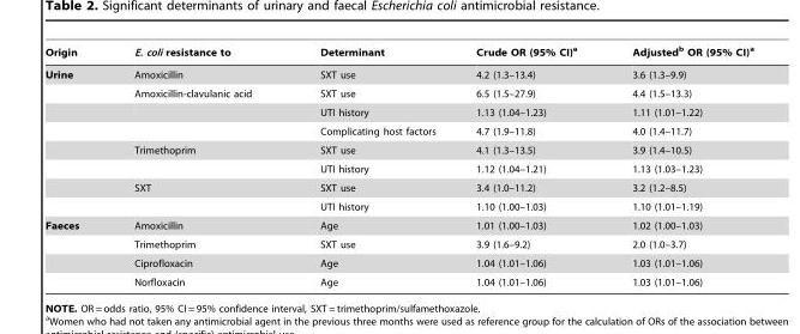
<table><thead><tr><td>Origin</td><td>E. coli resistance to</td><td>Determinant</td><td>Crude OR (95% CI)<sup>a</sup></td><td>Adjusted<sup>b</sup> OR (95% CI)<sup>a</sup></td></tr></thead><tbody><tr><td rowspan="8">Urine</td><td>Amoxicillin</td><td>SXT use</td><td>4.2 (1.3–13.4)</td><td>3.6 (1.3–9.9)</td></tr><tr><td>Amoxicillin-clavulanic acid</td><td>SXT use</td><td>6.5 (1.5–27.9)</td><td>4.4 (1.5–13.3)</td></tr><tr><td></td><td>UTI history</td><td>1.13 (1.04–1.23)</td><td>1.11 (1.01–1.22)</td></tr><tr><td></td><td>Complicating host factors</td><td>4.7 (1.9–11.8)</td><td>4.0 (1.4–11.7)</td></tr><tr><td>Trimethoprim</td><td>SXT use</td><td>4.1 (1.3–13.5)</td><td>3.9 (1.4–10.5)</td></tr><tr><td></td><td>UTI history</td><td>1.12 (1.04–1.21)</td><td>1.13 (1.03–1.23)</td></tr><tr><td>SXT</td><td>SXT use</td><td>3.4 (1.0–11.2)</td><td>3.2 (1.2–8.5)</td></tr><tr><td></td><td>UTI history</td><td>1.10 (1.00–1.03)</td><td>1.10 (1.01–1.19)</td></tr><tr><td rowspan="4">Faeces</td><td>Amoxicillin</td><td>Age</td><td>1.01 (1.00–1.03)</td><td>1.02 (1.00–1.03)</td></tr><tr><td>Trimethoprim</td><td>SXT use</td><td>3.9 (1.6–9.2)</td><td>2.0 (1.0–3.7)</td></tr><tr><td>Ciprofloxacin</td><td>Age</td><td>1.04 (1.01–1.06)</td><td>1.03 (1.01–1.06)</td></tr><tr><td>Norfloxacin</td><td>Age</td><td>1.04 (1.01–1.06)</td><td>1.03 (1.01–1.06)</td></tr></tbody></table>